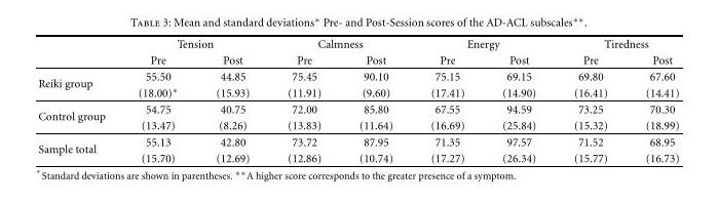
<table><thead><tr><td rowspan="2"></td><td colspan="2">Tension</td><td colspan="2">Calmness</td><td colspan="2">Energy</td><td colspan="2">Tiredness</td></tr><tr><td>Pre</td><td>Post</td><td>Pre</td><td>Post</td><td>Pre</td><td>Post</td><td>Pre</td><td>Post</td></tr></thead><tbody><tr><td rowspan="2">Reiki group</td><td>55.50</td><td>44.85</td><td>75.45</td><td>90.10</td><td>75.15</td><td>69.15</td><td>69.80</td><td>67.60</td></tr><tr><td>(18.00)∗</td><td>(15.93)</td><td>(11.91)</td><td>(9.60)</td><td>(17.41)</td><td>(14.90)</td><td>(16.41)</td><td>(14.41)</td></tr><tr><td rowspan="2">Control group</td><td>54.75</td><td>40.75</td><td>72.00</td><td>85.80</td><td>67.55</td><td>94.59</td><td>73.25</td><td>70.30</td></tr><tr><td>(13.47)</td><td>(8.26)</td><td>(13.83)</td><td>(11.64)</td><td>(16.69)</td><td>(25.84)</td><td>(15.32)</td><td>(18.99)</td></tr><tr><td rowspan="2">Sample total</td><td>55.13</td><td>42.80</td><td>73.72</td><td>87.95</td><td>71.35</td><td>97.57</td><td>71.52</td><td>68.95</td></tr><tr><td>(15.70)</td><td>(12.69)</td><td>(12.86)</td><td>(10.74)</td><td>(17.27)</td><td>(26.34)</td><td>(15.77)</td><td>(16.73)</td></tr></tbody></table>